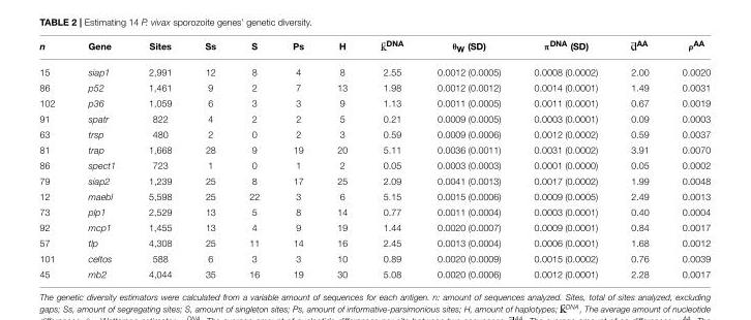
<table><thead><tr><td>n</td><td>Gene</td><td>Sites</td><td>Ss</td><td>S</td><td>Ps</td><td>H</td><td>DNA</td><td>θ<sub>W</sub> (SD)</td><td>π<sup>DNA</sup> (SD)</td><td>AA</td><td>ρ<sup>AA</sup></td></tr></thead><tbody><tr><td>15</td><td>siap1</td><td>2,991</td><td>12</td><td>8</td><td>4</td><td>8</td><td>2.55</td><td>0.0012 (0.0005)</td><td>0.0008 (0.0002)</td><td>2.00</td><td>0.0020</td></tr><tr><td>86</td><td>p52</td><td>1,461</td><td>9</td><td>2</td><td>7</td><td>13</td><td>1.98</td><td>0.0012 (0.0012)</td><td>0.0014 (0.0001)</td><td>1.49</td><td>0.0031</td></tr><tr><td>102</td><td>p36</td><td>1,059</td><td>6</td><td>3</td><td>3</td><td>9</td><td>1.13</td><td>0.0011 (0.0005)</td><td>0.0011 (0.0001)</td><td>0.67</td><td>0.0019</td></tr><tr><td>91</td><td>spatr</td><td>822</td><td>4</td><td>2</td><td>2</td><td>5</td><td>0.21</td><td>0.0009 (0.0005)</td><td>0.0003 (0.0001)</td><td>0.09</td><td>0.0003</td></tr><tr><td>63</td><td>trsp</td><td>480</td><td>2</td><td>0</td><td>2</td><td>3</td><td>0.59</td><td>0.0009 (0.0006)</td><td>0.0012 (0.0002)</td><td>0.59</td><td>0.0037</td></tr><tr><td>81</td><td>trap</td><td>1,668</td><td>28</td><td>9</td><td>19</td><td>20</td><td>5.11</td><td>0.0036 (0.0011)</td><td>0.0031 (0.0002)</td><td>3.91</td><td>0.0070</td></tr><tr><td>86</td><td>spect1</td><td>723</td><td>1</td><td>0</td><td>1</td><td>2</td><td>0.05</td><td>0.0003 (0.0003)</td><td>0.0001 (0.0000)</td><td>0.05</td><td>0.0002</td></tr><tr><td>79</td><td>siap2</td><td>1,239</td><td>25</td><td>8</td><td>17</td><td>25</td><td>2.09</td><td>0.0041 (0.0013)</td><td>0.0017 (0.0002)</td><td>1.99</td><td>0.0048</td></tr><tr><td>12</td><td>maebl</td><td>5,598</td><td>25</td><td>22</td><td>3</td><td>6</td><td>5.15</td><td>0.0015 (0.0006)</td><td>0.0009 (0.0005)</td><td>2.49</td><td>0.0013</td></tr><tr><td>73</td><td>plp1</td><td>2,529</td><td>13</td><td>5</td><td>8</td><td>14</td><td>0.77</td><td>0.0011 (0.0004)</td><td>0.0003 (0.0001)</td><td>0.40</td><td>0.0004</td></tr><tr><td>92</td><td>mcp1</td><td>1,455</td><td>13</td><td>4</td><td>9</td><td>19</td><td>1.44</td><td>0.0020 (0.0007)</td><td>0.0009 (0.0001)</td><td>0.84</td><td>0.0017</td></tr><tr><td>57</td><td>tlp</td><td>4,308</td><td>25</td><td>11</td><td>14</td><td>16</td><td>2.45</td><td>0.0013 (0.0004)</td><td>0.0006 (0.0001)</td><td>1.68</td><td>0.0012</td></tr><tr><td>101</td><td>celtos</td><td>588</td><td>6</td><td>3</td><td>3</td><td>10</td><td>0.89</td><td>0.0020 (0.0009)</td><td>0.0015 (0.0002)</td><td>0.76</td><td>0.0039</td></tr><tr><td>45</td><td>mb2</td><td>4,044</td><td>35</td><td>16</td><td>19</td><td>30</td><td>5.08</td><td>0.0020 (0.0006)</td><td>0.0012 (0.0001)</td><td>2.28</td><td>0.0017</td></tr></tbody></table>